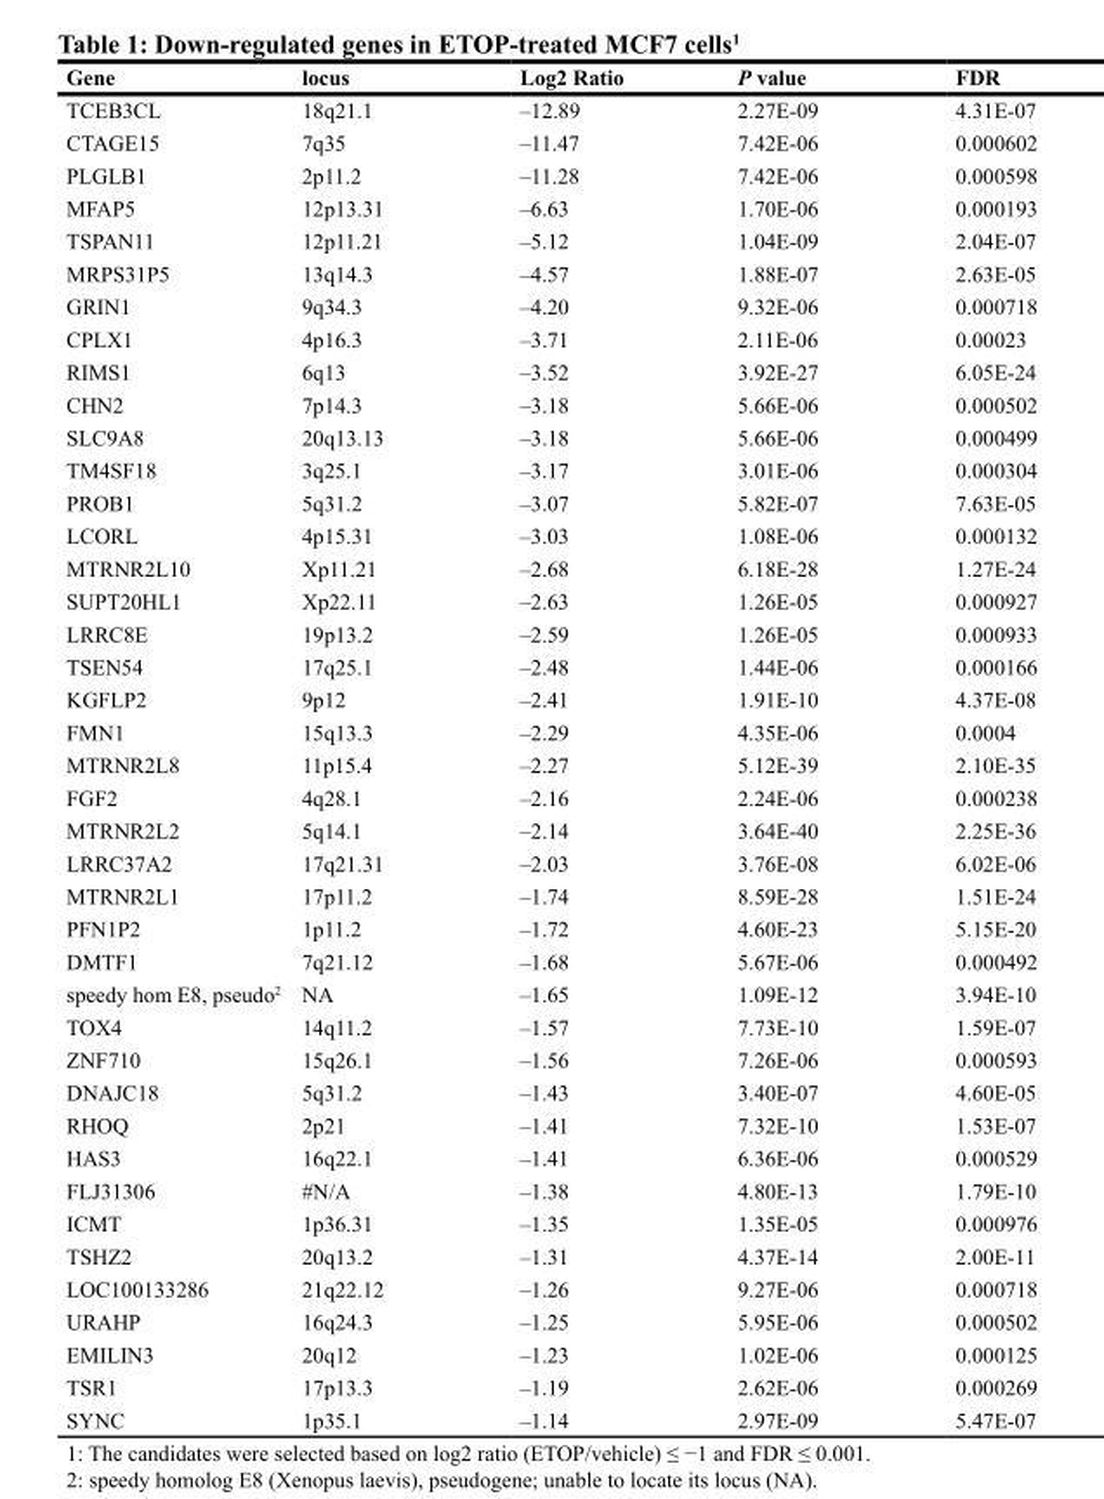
<table><thead><tr><td>Gene</td><td>locus</td><td>Log2 Ratio</td><td>P value</td><td>FDR</td></tr></thead><tbody><tr><td>TCEB3CL</td><td>18q21.1</td><td>–12.89</td><td>2.27E-09</td><td>4.31E-07</td></tr><tr><td>CTAGE15</td><td>7q35</td><td>–11.47</td><td>7.42E-06</td><td>0.000602</td></tr><tr><td>PLGLB1</td><td>2p11.2</td><td>–11.28</td><td>7.42E-06</td><td>0.000598</td></tr><tr><td>MFAP5</td><td>12p13.31</td><td>–6.63</td><td>1.70E-06</td><td>0.000193</td></tr><tr><td>TSPAN11</td><td>12p11.21</td><td>–5.12</td><td>1.04E-09</td><td>2.04E-07</td></tr><tr><td>MRPS31P5</td><td>13q14.3</td><td>–4.57</td><td>1.88E-07</td><td>2.63E-05</td></tr><tr><td>GRIN1</td><td>9q34.3</td><td>–4.20</td><td>9.32E-06</td><td>0.000718</td></tr><tr><td>CPLX1</td><td>4p16.3</td><td>–3.71</td><td>2.11E-06</td><td>0.00023</td></tr><tr><td>RIMS1</td><td>6q13</td><td>–3.52</td><td>3.92E-27</td><td>6.05E-24</td></tr><tr><td>CHN2</td><td>7p14.3</td><td>–3.18</td><td>5.66E-06</td><td>0.000502</td></tr><tr><td>SLC9A8</td><td>20q13.13</td><td>–3.18</td><td>5.66E-06</td><td>0.000499</td></tr><tr><td>TM4SF18</td><td>3q25.1</td><td>–3.17</td><td>3.01E-06</td><td>0.000304</td></tr><tr><td>PROB1</td><td>5q31.2</td><td>–3.07</td><td>5.82E-07</td><td>7.63E-05</td></tr><tr><td>LCORL</td><td>4p15.31</td><td>–3.03</td><td>1.08E-06</td><td>0.000132</td></tr><tr><td>MTRNR2L10</td><td>Xp11.21</td><td>–2.68</td><td>6.18E-28</td><td>1.27E-24</td></tr><tr><td>SUPT20HL1</td><td>Xp22.11</td><td>–2.63</td><td>1.26E-05</td><td>0.000927</td></tr><tr><td>LRRC8E</td><td>19p13.2</td><td>–2.59</td><td>1.26E-05</td><td>0.000933</td></tr><tr><td>TSEN54</td><td>17q25.1</td><td>–2.48</td><td>1.44E-06</td><td>0.000166</td></tr><tr><td>KGFLP2</td><td>9p12</td><td>–2.41</td><td>1.91E-10</td><td>4.37E-08</td></tr><tr><td>FMN1</td><td>15q13.3</td><td>–2.29</td><td>4.35E-06</td><td>0.0004</td></tr><tr><td>MTRNR2L8</td><td>11p15.4</td><td>–2.27</td><td>5.12E-39</td><td>2.10E-35</td></tr><tr><td>FGF2</td><td>4q28.1</td><td>–2.16</td><td>2.24E-06</td><td>0.000238</td></tr><tr><td>MTRNR2L2</td><td>5q14.1</td><td>–2.14</td><td>3.64E-40</td><td>2.25E-36</td></tr><tr><td>LRRC37A2</td><td>17q21.31</td><td>–2.03</td><td>3.76E-08</td><td>6.02E-06</td></tr><tr><td>MTRNR2L1</td><td>17p11.2</td><td>–1.74</td><td>8.59E-28</td><td>1.51E-24</td></tr><tr><td>PFN1P2</td><td>1p11.2</td><td>–1.72</td><td>4.60E-23</td><td>5.15E-20</td></tr><tr><td>DMTF1</td><td>7q21.12</td><td>–1.68</td><td>5.67E-06</td><td>0.000492</td></tr><tr><td>speedy hom E8, pseudo<sup>2</sup></td><td>NA</td><td>–1.65</td><td>1.09E-12</td><td>3.94E-10</td></tr><tr><td>TOX4</td><td>14q11.2</td><td>–1.57</td><td>7.73E-10</td><td>1.59E-07</td></tr><tr><td>ZNF710</td><td>15q26.1</td><td>–1.56</td><td>7.26E-06</td><td>0.000593</td></tr><tr><td>DNAJC18</td><td>5q31.2</td><td>–1.43</td><td>3.40E-07</td><td>4.60E-05</td></tr><tr><td>RHOQ</td><td>2p21</td><td>–1.41</td><td>7.32E-10</td><td>1.53E-07</td></tr><tr><td>HAS3</td><td>16q22.1</td><td>–1.41</td><td>6.36E-06</td><td>0.000529</td></tr><tr><td>FLJ31306</td><td>#N/A</td><td>–1.38</td><td>4.80E-13</td><td>1.79E-10</td></tr><tr><td>ICMT</td><td>1p36.31</td><td>–1.35</td><td>1.35E-05</td><td>0.000976</td></tr><tr><td>TSHZ2</td><td>20q13.2</td><td>–1.31</td><td>4.37E-14</td><td>2.00E-11</td></tr><tr><td>LOC100133286</td><td>21q22.12</td><td>–1.26</td><td>9.27E-06</td><td>0.000718</td></tr><tr><td>URAHP</td><td>16q24.3</td><td>–1.25</td><td>5.95E-06</td><td>0.000502</td></tr><tr><td>EMILIN3</td><td>20q12</td><td>–1.23</td><td>1.02E-06</td><td>0.000125</td></tr><tr><td>TSR1</td><td>17p13.3</td><td>–1.19</td><td>2.62E-06</td><td>0.000269</td></tr><tr><td>SYNC</td><td>1p35.1</td><td>–1.14</td><td>2.97E-09</td><td>5.47E-07</td></tr></tbody></table>